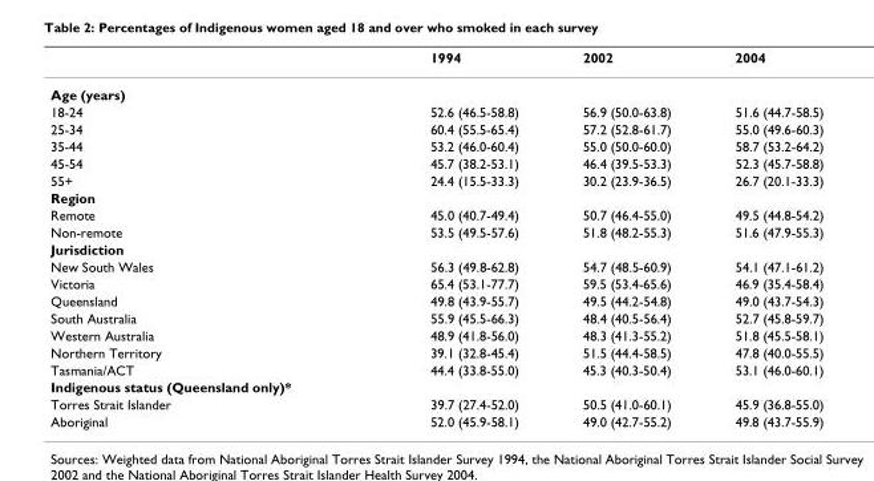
<table><thead><tr><td></td><td>1994</td><td>2002</td><td>2004</td></tr></thead><tbody><tr><td colspan="4">Age (years)</td></tr><tr><td>18-24</td><td>52.6 (46.5-58.8)</td><td>56.9 (50.0-63.8)</td><td>51.6 (44.7-58.5)</td></tr><tr><td>25-34</td><td>60.4 (55.5-65.4)</td><td>57.2 (52.8-61.7)</td><td>55.0 (49.6-60.3)</td></tr><tr><td>35-44</td><td>53.2 (46.0-60.4)</td><td>55.0 (50.0-60.0)</td><td>58.7 (53.2-64.2)</td></tr><tr><td>45-54</td><td>45.7 (38.2-53.1)</td><td>46.4 (39.5-53.3)</td><td>52.3 (45.7-58.8)</td></tr><tr><td>55+</td><td>24.4 (15.5-33.3)</td><td>30.2 (23.9-36.5)</td><td>26.7 (20.1-33.3)</td></tr><tr><td colspan="4">Region</td></tr><tr><td>Remote</td><td>45.0 (40.7-49.4)</td><td>50.7 (46.4-55.0)</td><td>49.5 (44.8-54.2)</td></tr><tr><td>Non-remote</td><td>53.5 (49.5-57.6)</td><td>51.8 (48.2-55.3)</td><td>51.6 (47.9-55.3)</td></tr><tr><td colspan="4">Jurisdiction</td></tr><tr><td>New South Wales</td><td>56.3 (49.8-62.8)</td><td>54.7 (48.5-60.9)</td><td>54.1 (47.1-61.2)</td></tr><tr><td>Victoria</td><td>65.4 (53.1-77.7)</td><td>59.5 (53.4-65.6)</td><td>46.9 (35.4-58.4)</td></tr><tr><td>Queensland</td><td>49.8 (43.9-55.7)</td><td>49.5 (44.2-54.8)</td><td>49.0 (43.7-54.3)</td></tr><tr><td>South Australia</td><td>55.9 (45.5-66.3)</td><td>48.4 (40.5-56.4)</td><td>52.7 (45.8-59.7)</td></tr><tr><td>Western Australia</td><td>48.9 (41.8-56.0)</td><td>48.3 (41.3-55.2)</td><td>51.8 (45.5-58.1)</td></tr><tr><td>Northern Territory</td><td>39.1 (32.8-45.4)</td><td>51.5 (44.4-58.5)</td><td>47.8 (40.0-55.5)</td></tr><tr><td>Tasmania/ACT</td><td>44.4 (33.8-55.0)</td><td>45.3 (40.3-50.4)</td><td>53.1 (46.0-60.1)</td></tr><tr><td colspan="4">Indigenous status (Queensland only)*</td></tr><tr><td>Torres Strait Islander</td><td>39.7 (27.4-52.0)</td><td>50.5 (41.0-60.1)</td><td>45.9 (36.8-55.0)</td></tr><tr><td>Aboriginal</td><td>52.0 (45.9-58.1)</td><td>49.0 (42.7-55.2)</td><td>49.8 (43.7-55.9)</td></tr></tbody></table>